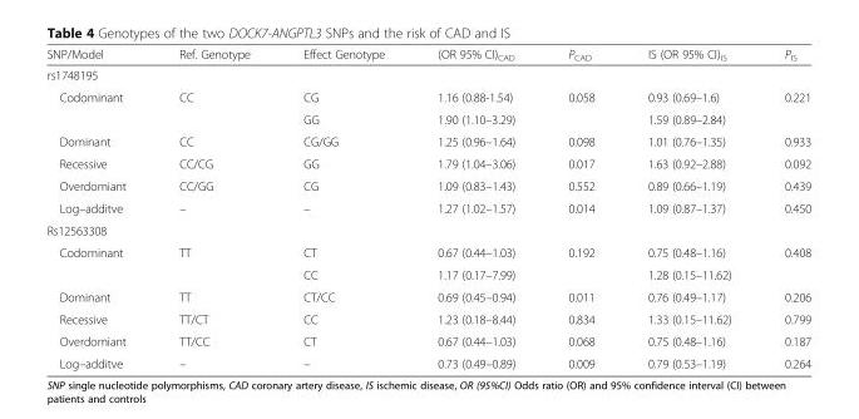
<table><thead><tr><td>SNP/Model</td><td>Ref. Genotype</td><td>Effect Genotype</td><td>(OR 95% CI)<sub>CAD</sub></td><td>P<sub>CAD</sub></td><td>IS (OR 95% CI)<sub>IS</sub></td><td>P<sub>IS</sub></td></tr></thead><tbody><tr><td colspan="7">rs1748195</td></tr><tr><td rowspan="2">Codominant</td><td>CC</td><td>CG</td><td>1.16 (0.88-1.54)</td><td>0.058</td><td>0.93 (0.69–1.6)</td><td>0.221</td></tr><tr><td></td><td>GG</td><td>1.90 (1.10–3.29)</td><td></td><td>1.59 (0.89–2.84)</td><td></td></tr><tr><td>Dominant</td><td>CC</td><td>CG/GG</td><td>1.25 (0.96–1.64)</td><td>0.098</td><td>1.01 (0.76–1.35)</td><td>0.933</td></tr><tr><td>Recessive</td><td>CC/CG</td><td>GG</td><td>1.79 (1.04–3.06)</td><td>0.017</td><td>1.63 (0.92–2.88)</td><td>0.092</td></tr><tr><td>Overdomiant</td><td>CC/GG</td><td>CG</td><td>1.09 (0.83–1.43)</td><td>0.552</td><td>0.89 (0.66–1.19)</td><td>0.439</td></tr><tr><td>Log–additve</td><td>–</td><td>–</td><td>1.27 (1.02–1.57)</td><td>0.014</td><td>1.09 (0.87–1.37)</td><td>0.450</td></tr><tr><td colspan="7">Rs12563308</td></tr><tr><td rowspan="2">Codominant</td><td>TT</td><td>CT</td><td>0.67 (0.44–1.03)</td><td>0.192</td><td>0.75 (0.48–1.16)</td><td>0.408</td></tr><tr><td></td><td>CC</td><td>1.17 (0.17–7.99)</td><td></td><td>1.28 (0.15–11.62)</td><td></td></tr><tr><td>Dominant</td><td>TT</td><td>CT/CC</td><td>0.69 (0.45–0.94)</td><td>0.011</td><td>0.76 (0.49–1.17)</td><td>0.206</td></tr><tr><td>Recessive</td><td>TT/CT</td><td>CC</td><td>1.23 (0.18–8.44)</td><td>0.834</td><td>1.33 (0.15–11.62)</td><td>0.799</td></tr><tr><td>Overdomiant</td><td>TT/CC</td><td>CT</td><td>0.67 (0.44–1.03)</td><td>0.068</td><td>0.75 (0.48–1.16)</td><td>0.187</td></tr><tr><td>Log–additve</td><td>–</td><td>–</td><td>0.73 (0.49–0.89)</td><td>0.009</td><td>0.79 (0.53–1.19)</td><td>0.264</td></tr></tbody></table>